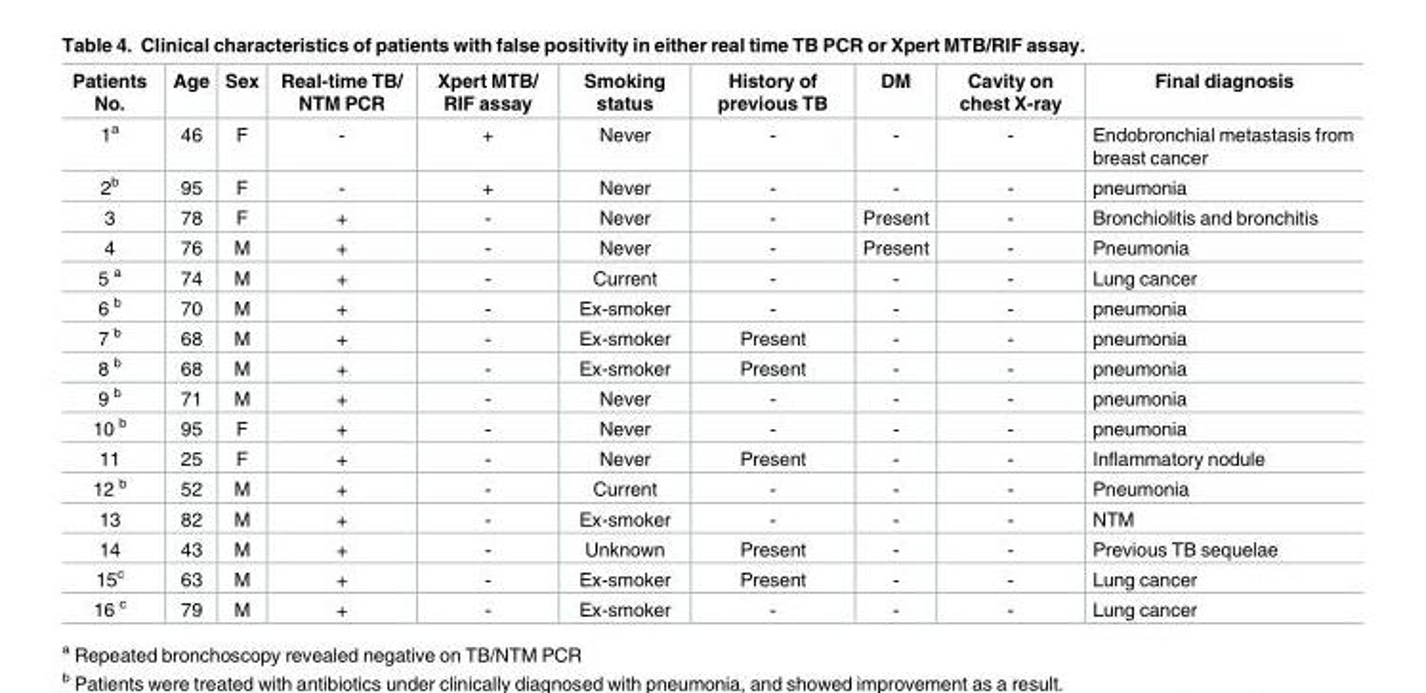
<table><thead><tr><td>Patients No.</td><td>Age</td><td>Sex</td><td>Real-time TB/ NTM PCR</td><td>Xpert MTB/ RIF assay</td><td>Smoking status</td><td>History of previous TB</td><td>DM</td><td>Cavity on chest X-ray</td><td>Final diagnosis</td></tr></thead><tbody><tr><td>1<sup>a</sup></td><td>46</td><td>F</td><td>-</td><td>+</td><td>Never</td><td>-</td><td>-</td><td>-</td><td>Endobronchial metastasis from breast cancer</td></tr><tr><td>2<sup>b</sup></td><td>95</td><td>F</td><td>-</td><td>+</td><td>Never</td><td>-</td><td>-</td><td>-</td><td>pneumonia</td></tr><tr><td>3</td><td>78</td><td>F</td><td>+</td><td>-</td><td>Never</td><td>-</td><td>Present</td><td>-</td><td>Bronchiolitis and bronchitis</td></tr><tr><td>4</td><td>76</td><td>M</td><td>+</td><td>-</td><td>Never</td><td>-</td><td>Present</td><td>-</td><td>Pneumonia</td></tr><tr><td>5 <sup>a</sup></td><td>74</td><td>M</td><td>+</td><td>-</td><td>Current</td><td>-</td><td>-</td><td>-</td><td>Lung cancer</td></tr><tr><td>6 <sup>b</sup></td><td>70</td><td>M</td><td>+</td><td>-</td><td>Ex-smoker</td><td>-</td><td>-</td><td>-</td><td>pneumonia</td></tr><tr><td>7 <sup>b</sup></td><td>68</td><td>M</td><td>+</td><td>-</td><td>Ex-smoker</td><td>Present</td><td>-</td><td>-</td><td>pneumonia</td></tr><tr><td>8 <sup>b</sup></td><td>68</td><td>M</td><td>+</td><td>-</td><td>Ex-smoker</td><td>Present</td><td>-</td><td>-</td><td>pneumonia</td></tr><tr><td>9 <sup>b</sup></td><td>71</td><td>M</td><td>+</td><td>-</td><td>Never</td><td>-</td><td>-</td><td>-</td><td>pneumonia</td></tr><tr><td>10 <sup>b</sup></td><td>95</td><td>F</td><td>+</td><td>-</td><td>Never</td><td>-</td><td>-</td><td>-</td><td>pneumonia</td></tr><tr><td>11</td><td>25</td><td>F</td><td>+</td><td>-</td><td>Never</td><td>Present</td><td>-</td><td>-</td><td>Inflammatory nodule</td></tr><tr><td>12 <sup>b</sup></td><td>52</td><td>M</td><td>+</td><td>-</td><td>Current</td><td>-</td><td>-</td><td>-</td><td>Pneumonia</td></tr><tr><td>13</td><td>82</td><td>M</td><td>+</td><td>-</td><td>Ex-smoker</td><td>-</td><td>-</td><td>-</td><td>NTM</td></tr><tr><td>14</td><td>43</td><td>M</td><td>+</td><td>-</td><td>Unknown</td><td>Present</td><td>-</td><td>-</td><td>Previous TB sequelae</td></tr><tr><td>15<sup>c</sup></td><td>63</td><td>M</td><td>+</td><td>-</td><td>Ex-smoker</td><td>Present</td><td>-</td><td>-</td><td>Lung cancer</td></tr><tr><td>16 <sup>c</sup></td><td>79</td><td>M</td><td>+</td><td>-</td><td>Ex-smoker</td><td>-</td><td>-</td><td>-</td><td>Lung cancer</td></tr></tbody></table>